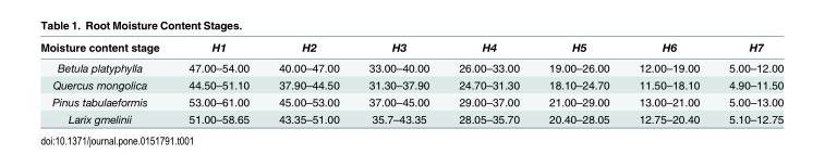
<table><thead><tr><td>Moisture content stage</td><td>H1</td><td>H2</td><td>H3</td><td>H4</td><td>H5</td><td>H6</td><td>H7</td></tr></thead><tbody><tr><td>Betula platyphylla</td><td>47.00–54.00</td><td>40.00–47.00</td><td>33.00–40.00</td><td>26.00–33.00</td><td>19.00–26.00</td><td>12.00–19.00</td><td>5.00–12.00</td></tr><tr><td>Quercus mongolica</td><td>44.50–51.10</td><td>37.90–44.50</td><td>31.30–37.90</td><td>24.70–31.30</td><td>18.10–24.70</td><td>11.50–18.10</td><td>4.90–11.50</td></tr><tr><td>Pinus tabulaeformis</td><td>53.00–61.00</td><td>45.00–53.00</td><td>37.00–45.00</td><td>29.00–37.00</td><td>21.00–29.00</td><td>13.00–21.00</td><td>5.00–13.00</td></tr><tr><td>Larix gmelinii</td><td>51.00–58.65</td><td>43.35–51.00</td><td>35.7–43.35</td><td>28.05–35.70</td><td>20.40–28.05</td><td>12.75–20.40</td><td>5.10–12.75</td></tr></tbody></table>